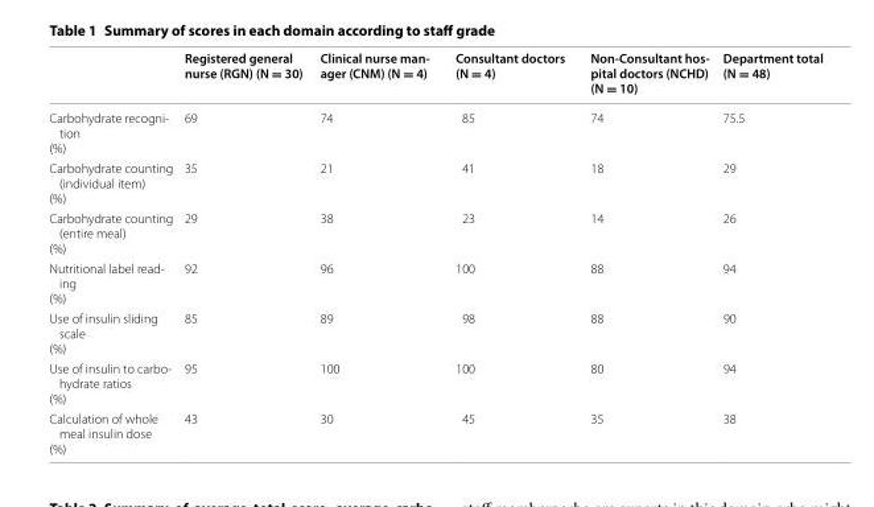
<table><thead><tr><td></td><td>Registered general nurse (RGN) (N = 30)</td><td>Clinical nurse man- ager (CNM) (N = 4)</td><td>Consultant doctors (N = 4)</td><td>Non-Consultant hos- pital doctors (NCHD) (N = 10)</td><td>Department total (N = 48)</td></tr></thead><tbody><tr><td>Carbohydrate recogni- tion (%)</td><td>69</td><td>74</td><td>85</td><td>74</td><td>75.5</td></tr><tr><td>Carbohydrate counting (individual item) (%)</td><td>35</td><td>21</td><td>41</td><td>18</td><td>29</td></tr><tr><td>Carbohydrate counting (entire meal) (%)</td><td>29</td><td>38</td><td>23</td><td>14</td><td>26</td></tr><tr><td>Nutritional label read- ing (%)</td><td>92</td><td>96</td><td>100</td><td>88</td><td>94</td></tr><tr><td>Use of insulin sliding scale (%)</td><td>85</td><td>89</td><td>98</td><td>88</td><td>90</td></tr><tr><td>Use of insulin to carbo- hydrate ratios (%)</td><td>95</td><td>100</td><td>100</td><td>80</td><td>94</td></tr><tr><td>Calculation of whole meal insulin dose (%)</td><td>43</td><td>30</td><td>45</td><td>35</td><td>38</td></tr></tbody></table>